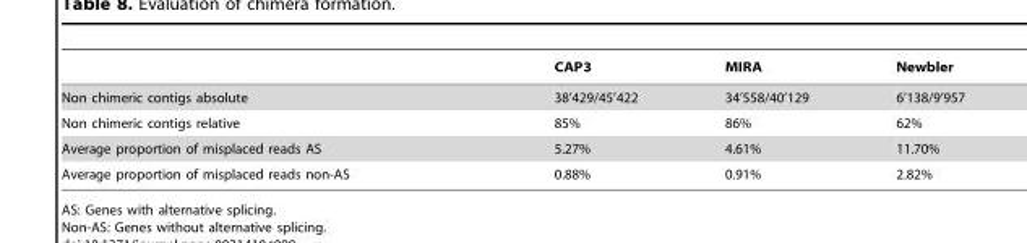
<table><thead><tr><td></td><td>CAP3</td><td>MIRA</td><td>Newbler</td></tr></thead><tbody><tr><td>Non chimeric contigs absolute</td><td>38’429/45’422</td><td>34’558/40’129</td><td>6’138/9’957</td></tr><tr><td>Non chimeric contigs relative</td><td>85%</td><td>86%</td><td>62%</td></tr><tr><td>Average proportion of misplaced reads AS</td><td>5.27%</td><td>4.61%</td><td>11.70%</td></tr><tr><td>Average proportion of misplaced reads non-AS</td><td>0.88%</td><td>0.91%</td><td>2.82%</td></tr></tbody></table>